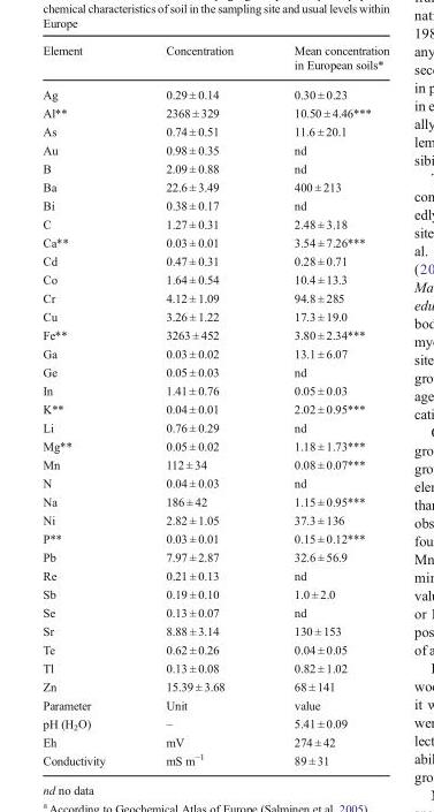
<table><thead><tr><td>Element</td><td>Concentration</td><td>Mean concentration in European soils*</td></tr></thead><tbody><tr><td>Ag</td><td>0.29 ± 0.14</td><td>0.30 ± 0.23</td></tr><tr><td>Al**</td><td>2368 ± 329</td><td>10.50 ± 4.46***</td></tr><tr><td>As</td><td>0.74 ± 0.51</td><td>11.6 ± 20.1</td></tr><tr><td>Au</td><td>0.98 ± 0.35</td><td>nd</td></tr><tr><td>B</td><td>2.09 ± 0.88</td><td>nd</td></tr><tr><td>Ba</td><td>22.6 ± 3.49</td><td>400 ± 213</td></tr><tr><td>Bi</td><td>0.38 ± 0.17</td><td>nd</td></tr><tr><td>C</td><td>1.27 ± 0.31</td><td>2.48 ± 3.18</td></tr><tr><td>Ca**</td><td>0.03 ± 0.01</td><td>3.54 ± 7.26***</td></tr><tr><td>Cd</td><td>0.47 ± 0.31</td><td>0.28 ± 0.71</td></tr><tr><td>Co</td><td>1.64 ± 0.54</td><td>10.4 ± 13.3</td></tr><tr><td>Cr</td><td>4.12 ± 1.09</td><td>94.8 ± 285</td></tr><tr><td>Cu</td><td>3.26 ± 1.22</td><td>17.3 ± 19.0</td></tr><tr><td>Fe**</td><td>3263 ± 452</td><td>3.80 ± 2.34***</td></tr><tr><td>Ga</td><td>0.03 ± 0.02</td><td>13.1 ± 6.07</td></tr><tr><td>Ge</td><td>0.05 ± 0.03</td><td>nd</td></tr><tr><td>In</td><td>1.41 ± 0.76</td><td>0.05 ± 0.03</td></tr><tr><td>K**</td><td>0.04 ± 0.01</td><td>2.02 ± 0.95***</td></tr><tr><td>Li</td><td>0.76 ± 0.29</td><td>nd</td></tr><tr><td>Mg**</td><td>0.05 ± 0.02</td><td>1.18 ± 1.73***</td></tr><tr><td>Mn</td><td>112 ± 34</td><td>0.08 ± 0.07***</td></tr><tr><td>N</td><td>0.04 ± 0.03</td><td>nd</td></tr><tr><td>Na</td><td>186 ± 42</td><td>1.15 ± 0.95***</td></tr><tr><td>Ni</td><td>2.82 ± 1.05</td><td>37.3 ± 136</td></tr><tr><td>P**</td><td>0.03 ± 0.01</td><td>0.15 ± 0.12***</td></tr><tr><td>Pb</td><td>7.97 ± 2.87</td><td>32.6 ± 56.9</td></tr><tr><td>Re</td><td>0.21 ± 0.13</td><td>nd</td></tr><tr><td>Sb</td><td>0.19 ± 0.10</td><td>1.0 ± 2.0</td></tr><tr><td>Se</td><td>0.13 ± 0.07</td><td>nd</td></tr><tr><td>Sr</td><td>8.88 ± 3.14</td><td>130 ± 153</td></tr><tr><td>Te</td><td>0.62 ± 0.26</td><td>0.04 ± 0.05</td></tr><tr><td>Tl</td><td>0.13 ± 0.08</td><td>0.82 ± 1.02</td></tr><tr><td>Zn</td><td>15.39 ± 3.68</td><td>68 ± 141</td></tr><tr><td>Parameter</td><td>Unit</td><td>value</td></tr><tr><td>pH (H<sub>2</sub>O)</td><td>–</td><td>5.41 ± 0.09</td></tr><tr><td>Eh</td><td>mV</td><td>274 ± 42</td></tr><tr><td>Conductivity</td><td>mS m<sup>−1</sup></td><td>89 ± 31</td></tr></tbody></table>